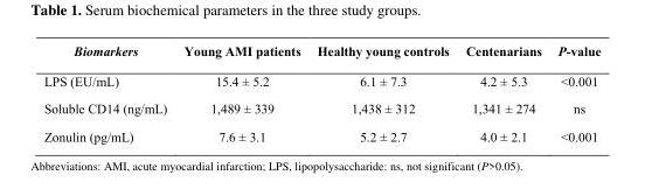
<table><thead><tr><td>Biomarkers</td><td>Young AMI patients</td><td>Healthy young controls</td><td>Centenarians</td><td>P-value</td></tr></thead><tbody><tr><td>LPS (EU/mL)</td><td>15.4 ± 5.2</td><td>6.1 ± 7.3</td><td>4.2 ± 5.3</td><td>&lt;0.001</td></tr><tr><td>Soluble CD14 (ng/mL)</td><td>1,489 ± 339</td><td>1,438 ± 312</td><td>1,341 ± 274</td><td>ns</td></tr><tr><td>Zonulin (pg/mL)</td><td>7.6 ± 3.1</td><td>5.2 ± 2.7</td><td>4.0 ± 2.1</td><td>&lt;0.001</td></tr></tbody></table>